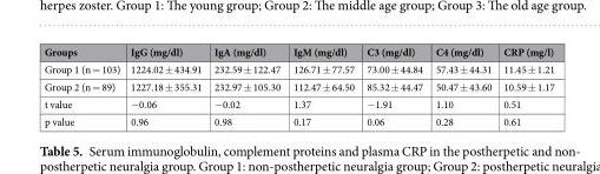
<table><thead><tr><td>Groups</td><td>IgG (mg/dl)</td><td>IgA (mg/dl)</td><td>IgM (mg/dl)</td><td>C3 (mg/dl)</td><td>C4 (mg/dl)</td><td>CRP (mg/l)</td></tr></thead><tbody><tr><td>Group 1 (n = 103)</td><td>1224.02 ± 434.91</td><td>232.59 ± 122.47</td><td>126.71 ± 77.57</td><td>73.00 ± 44.84</td><td>57.43 ± 44.31</td><td>11.45 ± 1.21</td></tr><tr><td>Group 2 (n = 89)</td><td>1227.18 ± 355.31</td><td>232.97 ± 105.30</td><td>112.47 ± 64.50</td><td>85.32 ± 44.47</td><td>50.47 ± 43.60</td><td>10.59 ± 1.17</td></tr><tr><td>t value</td><td>−0.06</td><td>−0.02</td><td>1.37</td><td>−1.91</td><td>1.10</td><td>0.51</td></tr><tr><td>p value</td><td>0.96</td><td>0.98</td><td>0.17</td><td>0.06</td><td>0.28</td><td>0.61</td></tr></tbody></table>